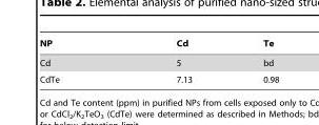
<table><thead><tr><td>NP</td><td>Cd</td><td>Te</td></tr></thead><tbody><tr><td>Cd</td><td>5</td><td>bd</td></tr><tr><td>CdTe</td><td>7.13</td><td>0.98</td></tr></tbody></table>